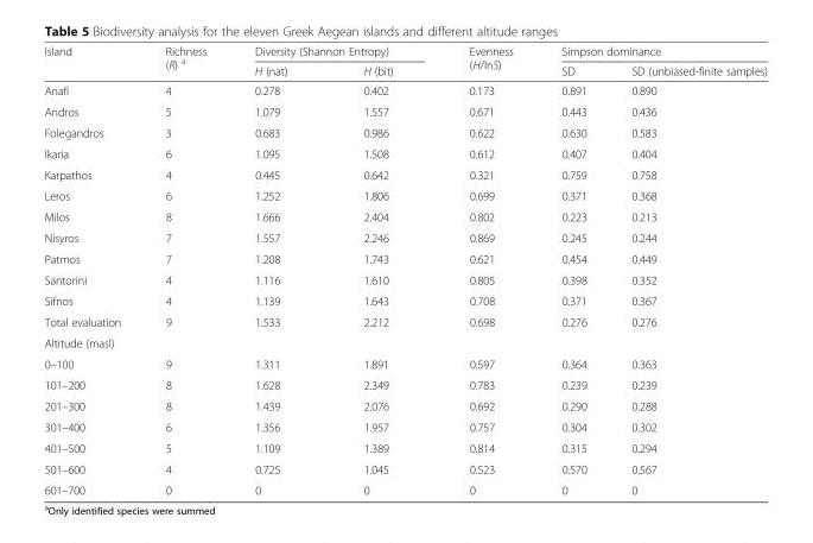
<table><thead><tr><td rowspan="2">Island</td><td rowspan="2">Richness (R) <sup>a</sup></td><td colspan="2">Diversity (Shannon Entropy)</td><td rowspan="2">Evenness (H/lnS)</td><td colspan="2">Simpson dominance</td></tr><tr><td>H (nat)</td><td>H (bit)</td><td>SD</td><td>SD (unbiased-finite samples)</td></tr></thead><tbody><tr><td>Anafi</td><td>4</td><td>0.278</td><td>0.402</td><td>0.173</td><td>0.891</td><td>0.890</td></tr><tr><td>Andros</td><td>5</td><td>1.079</td><td>1.557</td><td>0.671</td><td>0.443</td><td>0.436</td></tr><tr><td>Folegandros</td><td>3</td><td>0.683</td><td>0.986</td><td>0.622</td><td>0.630</td><td>0.583</td></tr><tr><td>Ikaria</td><td>6</td><td>1.095</td><td>1.508</td><td>0.612</td><td>0.407</td><td>0.404</td></tr><tr><td>Karpathos</td><td>4</td><td>0.445</td><td>0.642</td><td>0.321</td><td>0.759</td><td>0.758</td></tr><tr><td>Leros</td><td>6</td><td>1.252</td><td>1.806</td><td>0.699</td><td>0.371</td><td>0.368</td></tr><tr><td>Milos</td><td>8</td><td>1.666</td><td>2.404</td><td>0.802</td><td>0.223</td><td>0.213</td></tr><tr><td>Nisyros</td><td>7</td><td>1.557</td><td>2.246</td><td>0.869</td><td>0.245</td><td>0.244</td></tr><tr><td>Patmos</td><td>7</td><td>1.208</td><td>1.743</td><td>0.621</td><td>0.454</td><td>0.449</td></tr><tr><td>Santorini</td><td>4</td><td>1.116</td><td>1.610</td><td>0.805</td><td>0.398</td><td>0.352</td></tr><tr><td>Sifnos</td><td>4</td><td>1.139</td><td>1.643</td><td>0.708</td><td>0.371</td><td>0.367</td></tr><tr><td>Total evaluation</td><td>9</td><td>1.533</td><td>2.212</td><td>0.698</td><td>0.276</td><td>0.276</td></tr><tr><td colspan="7">Altitude (masl)</td></tr><tr><td>0–100</td><td>9</td><td>1.311</td><td>1.891</td><td>0.597</td><td>0.364</td><td>0.363</td></tr><tr><td>101–200</td><td>8</td><td>1.628</td><td>2.349</td><td>0.783</td><td>0.239</td><td>0.239</td></tr><tr><td>201–300</td><td>8</td><td>1.439</td><td>2.076</td><td>0.692</td><td>0.290</td><td>0.288</td></tr><tr><td>301–400</td><td>6</td><td>1.356</td><td>1.957</td><td>0.757</td><td>0.304</td><td>0.302</td></tr><tr><td>401–500</td><td>5</td><td>1.109</td><td>1.389</td><td>0.814</td><td>0.315</td><td>0.294</td></tr><tr><td>501–600</td><td>4</td><td>0.725</td><td>1.045</td><td>0.523</td><td>0.570</td><td>0.567</td></tr><tr><td>601–700</td><td>0</td><td>0</td><td>0</td><td>0</td><td>0</td><td>0</td></tr></tbody></table>